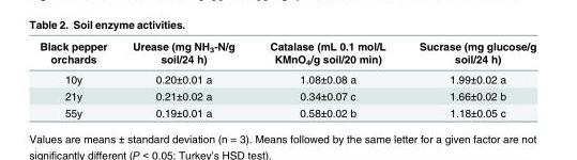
<table><thead><tr><td>Black pepper orchards</td><td>Urease (mg NH<sub>3</sub>-N/g soil/24 h)</td><td>Catalase (mL 0.1 mol/L KMnO<sub>4</sub>/g soil/20 min)</td><td>Sucrase (mg glucose/g soil/24 h)</td></tr></thead><tbody><tr><td>10y</td><td>0.20±0.01 a</td><td>1.08±0.08 a</td><td>1.99±0.02 a</td></tr><tr><td>21y</td><td>0.21±0.02 a</td><td>0.34±0.07 c</td><td>1.66±0.02 b</td></tr><tr><td>55y</td><td>0.19±0.01 a</td><td>0.58±0.02 b</td><td>1.18±0.05 c</td></tr></tbody></table>